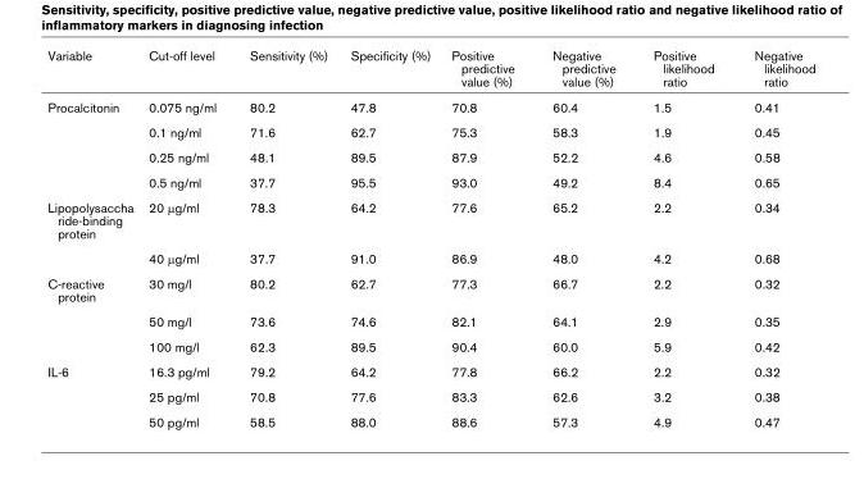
<table><thead><tr><td>Variable</td><td>Cut-off level</td><td>Sensitivity (%)</td><td>Specificity (%)</td><td>Positive predictive value (%)</td><td>Negative predictive value (%)</td><td>Positive likelihood ratio</td><td>Negative likelihood ratio</td></tr></thead><tbody><tr><td rowspan="4">Procalcitonin</td><td>0.075 ng/ml</td><td>80.2</td><td>47.8</td><td>70.8</td><td>60.4</td><td>1.5</td><td>0.41</td></tr><tr><td>0.1 ng/ml</td><td>71.6</td><td>62.7</td><td>75.3</td><td>58.3</td><td>1.9</td><td>0.45</td></tr><tr><td>0.25 ng/ml</td><td>48.1</td><td>89.5</td><td>87.9</td><td>52.2</td><td>4.6</td><td>0.58</td></tr><tr><td>0.5 ng/ml</td><td>37.7</td><td>95.5</td><td>93.0</td><td>49.2</td><td>8.4</td><td>0.65</td></tr><tr><td rowspan="2">Lipopolysaccha ride-binding protein</td><td>20 µg/ml</td><td>78.3</td><td>64.2</td><td>77.6</td><td>65.2</td><td>2.2</td><td>0.34</td></tr><tr><td>40 µg/ml</td><td>37.7</td><td>91.0</td><td>86.9</td><td>48.0</td><td>4.2</td><td>0.68</td></tr><tr><td rowspan="3">C-reactive protein</td><td>30 mg/l</td><td>80.2</td><td>62.7</td><td>77.3</td><td>66.7</td><td>2.2</td><td>0.32</td></tr><tr><td>50 mg/l</td><td>73.6</td><td>74.6</td><td>82.1</td><td>64.1</td><td>2.9</td><td>0.35</td></tr><tr><td>100 mg/l</td><td>62.3</td><td>89.5</td><td>90.4</td><td>60.0</td><td>5.9</td><td>0.42</td></tr><tr><td rowspan="3">IL-6</td><td>16.3 pg/ml</td><td>79.2</td><td>64.2</td><td>77.8</td><td>66.2</td><td>2.2</td><td>0.32</td></tr><tr><td>25 pg/ml</td><td>70.8</td><td>77.6</td><td>83.3</td><td>62.6</td><td>3.2</td><td>0.38</td></tr><tr><td>50 pg/ml</td><td>58.5</td><td>88.0</td><td>88.6</td><td>57.3</td><td>4.9</td><td>0.47</td></tr></tbody></table>